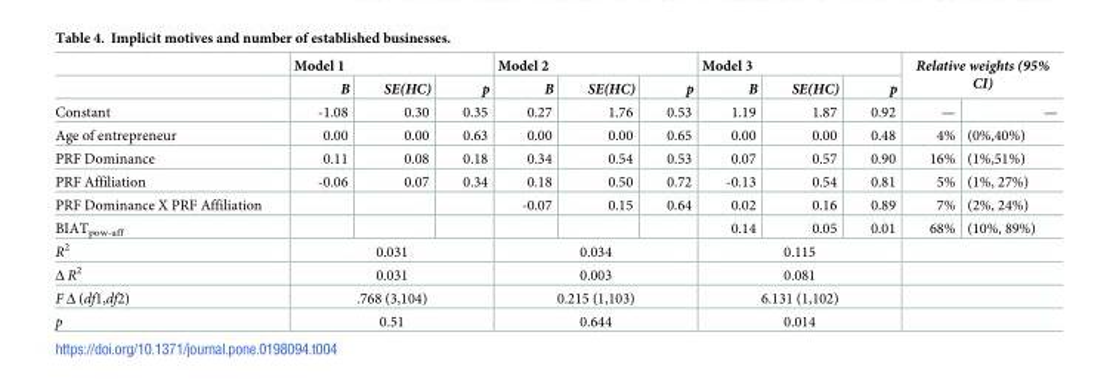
<table><thead><tr><td rowspan="3">Constant</td><td colspan="3">Model 1</td><td colspan="3">Model 2</td><td colspan="3">Model 3</td><td rowspan="2" colspan="2">Relative weights (95% CI)</td></tr><tr><td rowspan="2">B -1.08</td><td rowspan="2">SE(HC) 0.30</td><td rowspan="2">p 0.35</td><td rowspan="2">B 0.27</td><td rowspan="2">SE(HC) 1.76</td><td rowspan="2">p 0.53</td><td rowspan="2">B 1.19</td><td rowspan="2">SE(HC) 1.87</td><td rowspan="2">p 0.92</td></tr><tr><td>—</td><td>—</td></tr></thead><tbody><tr><td>Age of entrepreneur</td><td>0.00</td><td>0.00</td><td>0.63</td><td>0.00</td><td>0.00</td><td>0.65</td><td>0.00</td><td>0.00</td><td>0.48</td><td>4%</td><td>(0%,40%)</td></tr><tr><td>PRF Dominance</td><td>0.11</td><td>0.08</td><td>0.18</td><td>0.34</td><td>0.54</td><td>0.53</td><td>0.07</td><td>0.57</td><td>0.90</td><td>16%</td><td>(1%,51%)</td></tr><tr><td>PRF Affiliation</td><td>-0.06</td><td>0.07</td><td>0.34</td><td>0.18</td><td>0.50</td><td>0.72</td><td>-0.13</td><td>0.54</td><td>0.81</td><td>5%</td><td>(1%, 27%)</td></tr><tr><td>PRF Dominance X PRF Affiliation</td><td></td><td></td><td></td><td>-0.07</td><td>0.15</td><td>0.64</td><td>0.02</td><td>0.16</td><td>0.89</td><td>7%</td><td>(2%, 24%)</td></tr><tr><td>BIAT<sub>pow-aff</sub></td><td></td><td></td><td></td><td></td><td></td><td></td><td>0.14</td><td>0.05</td><td>0.01</td><td>68%</td><td>(10%, 89%)</td></tr><tr><td>R<sup>2</sup></td><td colspan="3">0.031</td><td colspan="3">0.034</td><td colspan="3">0.115</td><td colspan="2"></td></tr><tr><td>Δ R<sup>2</sup></td><td colspan="3">0.031</td><td colspan="3">0.003</td><td colspan="3">0.081</td><td colspan="2"></td></tr><tr><td>F Δ (df1,df2)</td><td colspan="3">.768 (3,104)</td><td colspan="3">0.215 (1,103)</td><td colspan="3">6.131 (1,102)</td><td colspan="2"></td></tr><tr><td>p</td><td colspan="3">0.51</td><td colspan="3">0.644</td><td colspan="3">0.014</td><td colspan="2"></td></tr></tbody></table>